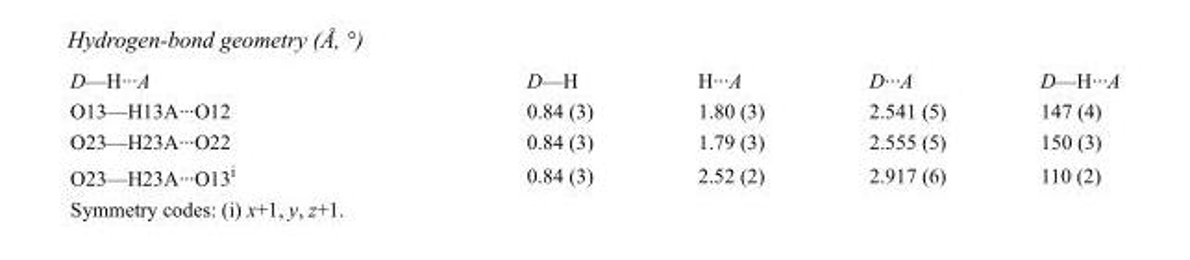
<table><tbody><tr><td>D—H···A</td><td>D—H</td><td>H···A</td><td>D···A</td><td>D—H···A</td></tr><tr><td>O13—H13A···O12</td><td>0.84 (3)</td><td>1.80 (3)</td><td>2.541 (5)</td><td>147 (4)</td></tr><tr><td>O23—H23A···O22</td><td>0.84 (3)</td><td>1.79 (3)</td><td>2.555 (5)</td><td>150 (3)</td></tr><tr><td>O23—H23A···O13<sup>i</sup></td><td>0.84 (3)</td><td>2.52 (2)</td><td>2.917 (6)</td><td>110 (2)</td></tr></tbody></table>